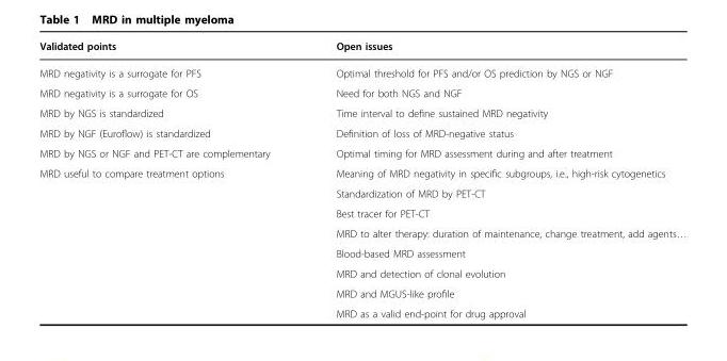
<table><thead><tr><td>Validated points</td><td>Open issues</td></tr></thead><tbody><tr><td>MRD negativity is a surrogate for PFS</td><td>Optimal threshold for PFS and/or OS prediction by NGS or NGF</td></tr><tr><td>MRD negativity is a surrogate for OS</td><td>Need for both NGS and NGF</td></tr><tr><td>MRD by NGS is standardized</td><td>Time interval to define sustained MRD negativity</td></tr><tr><td>MRD by NGF (Euroflow) is standardized</td><td>Definition of loss of MRD-negative status</td></tr><tr><td>MRD by NGS or NGF and PET-CT are complementary</td><td>Optimal timing for MRD assessment during and after treatment</td></tr><tr><td rowspan="8">MRD useful to compare treatment options</td><td>Meaning of MRD negativity in specific subgroups, i.e., high-risk cytogenetics</td></tr><tr><td>Standardization of MRD by PET-CT</td></tr><tr><td>Best tracer for PET-CT</td></tr><tr><td>MRD to alter therapy: duration of maintenance, change treatment, add agents…</td></tr><tr><td>Blood-based MRD assessment</td></tr><tr><td>MRD and detection of clonal evolution</td></tr><tr><td>MRD and MGUS-like profile</td></tr><tr><td>MRD as a valid end-point for drug approval</td></tr></tbody></table>